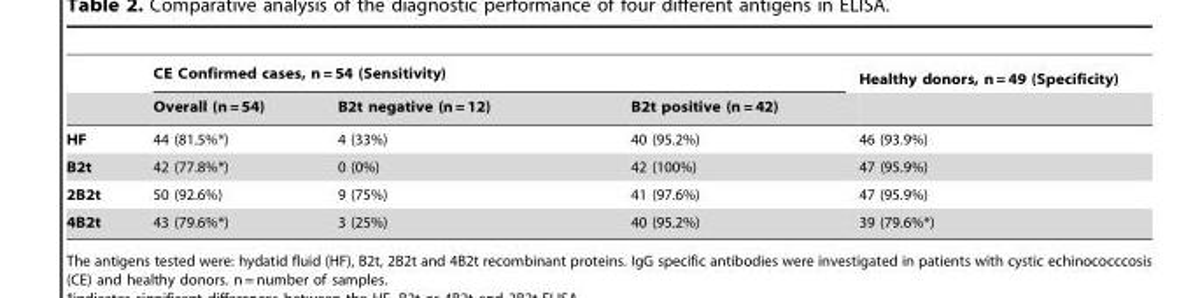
<table><thead><tr><td rowspan="2"></td><td colspan="3">CE Confirmed cases, n = 54 (Sensitivity)</td><td rowspan="2">Healthy donors, n = 49 (Specificity)</td></tr><tr><td>Overall (n = 54)</td><td>B2t negative (n = 12)</td><td>B2t positive (n = 42)</td></tr></thead><tbody><tr><td>HF</td><td>44 (81.5%*)</td><td>4 (33%)</td><td>40 (95.2%)</td><td>46 (93.9%)</td></tr><tr><td>B2t</td><td>42 (77.8%*)</td><td>0 (0%)</td><td>42 (100%)</td><td>47 (95.9%)</td></tr><tr><td>2B2t</td><td>50 (92.6%)</td><td>9 (75%)</td><td>41 (97.6%)</td><td>47 (95.9%)</td></tr><tr><td>4B2t</td><td>43 (79.6%*)</td><td>3 (25%)</td><td>40 (95.2%)</td><td>39 (79.6%*)</td></tr></tbody></table>